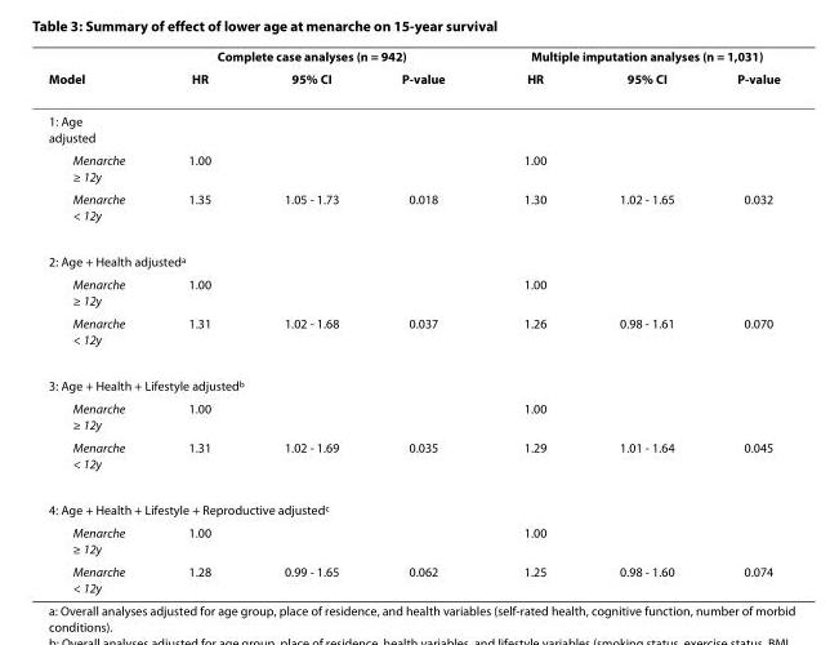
<table><thead><tr><td rowspan="2">Model</td><td colspan="3">Complete case analyses (n = 942)</td><td colspan="3">Multiple imputation analyses (n = 1,031)</td></tr><tr><td>HR</td><td>95% CI</td><td>P-value</td><td>HR</td><td>95% CI</td><td>P-value</td></tr></thead><tbody><tr><td colspan="7">1: Age adjusted</td></tr><tr><td>Menarche ≥ 12y</td><td>1.00</td><td></td><td></td><td>1.00</td><td></td><td></td></tr><tr><td>Menarche &lt; 12y</td><td>1.35</td><td>1.05 - 1.73</td><td>0.018</td><td>1.30</td><td>1.02 - 1.65</td><td>0.032</td></tr><tr><td colspan="7">2: Age + Health adjusted<sup>a</sup></td></tr><tr><td>Menarche ≥ 12y</td><td>1.00</td><td></td><td></td><td>1.00</td><td></td><td></td></tr><tr><td>Menarche &lt; 12y</td><td>1.31</td><td>1.02 - 1.68</td><td>0.037</td><td>1.26</td><td>0.98 - 1.61</td><td>0.070</td></tr><tr><td colspan="7">3: Age + Health + Lifestyle adjusted<sup>b</sup></td></tr><tr><td>Menarche ≥ 12y</td><td>1.00</td><td></td><td></td><td>1.00</td><td></td><td></td></tr><tr><td>Menarche &lt; 12y</td><td>1.31</td><td>1.02 - 1.69</td><td>0.035</td><td>1.29</td><td>1.01 - 1.64</td><td>0.045</td></tr><tr><td colspan="7">4: Age + Health + Lifestyle + Reproductive adjusted<sup>c</sup></td></tr><tr><td>Menarche ≥ 12y</td><td>1.00</td><td></td><td></td><td>1.00</td><td></td><td></td></tr><tr><td>Menarche &lt; 12y</td><td>1.28</td><td>0.99 - 1.65</td><td>0.062</td><td>1.25</td><td>0.98 - 1.60</td><td>0.074</td></tr></tbody></table>